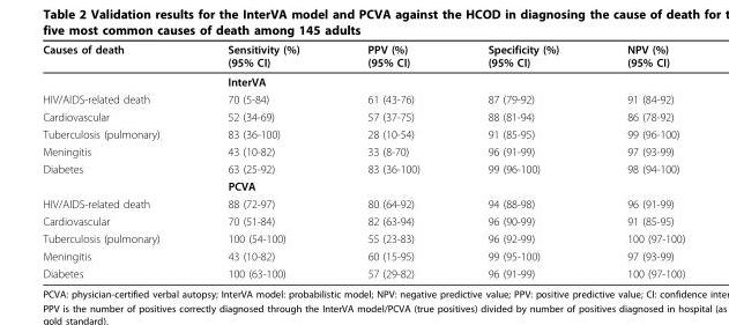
<table><thead><tr><td>Causes of death</td><td>Sensitivity (%) (95% CI)</td><td>PPV (%) (95% CI)</td><td>Specificity (%) (95% CI)</td><td>NPV (%) (95% CI)</td></tr></thead><tbody><tr><td></td><td>InterVA</td><td></td><td></td><td></td></tr><tr><td>HIV/AIDS-related death</td><td>70 (5-84)</td><td>61 (43-76)</td><td>87 (79-92)</td><td>91 (84-92)</td></tr><tr><td>Cardiovascular</td><td>52 (34-69)</td><td>57 (37-75)</td><td>88 (81-94)</td><td>86 (78-92)</td></tr><tr><td>Tuberculosis (pulmonary)</td><td>83 (36-100)</td><td>28 (10-54)</td><td>91 (85-95)</td><td>99 (96-100)</td></tr><tr><td>Meningitis</td><td>43 (10-82)</td><td>33 (8-70)</td><td>96 (91-99)</td><td>97 (93-99)</td></tr><tr><td rowspan="2">Diabetes</td><td>63 (25-92)</td><td>83 (36-100)</td><td>99 (96-100)</td><td>98 (94-100)</td></tr><tr><td>PCVA</td><td></td><td></td><td></td></tr><tr><td>HIV/AIDS-related death</td><td>88 (72-97)</td><td>80 (64-92)</td><td>94 (88-98)</td><td>96 (91-99)</td></tr><tr><td>Cardiovascular</td><td>70 (51-84)</td><td>82 (63-94)</td><td>96 (90-99)</td><td>91 (85-95)</td></tr><tr><td>Tuberculosis (pulmonary)</td><td>100 (54-100)</td><td>55 (23-83)</td><td>96 (92-99)</td><td>100 (97-100)</td></tr><tr><td>Meningitis</td><td>43 (10-82)</td><td>60 (15-95)</td><td>99 (95-100)</td><td>97 (93-99)</td></tr><tr><td>Diabetes</td><td>100 (63-100)</td><td>57 (29-82)</td><td>96 (91-99)</td><td>100 (97-100)</td></tr></tbody></table>